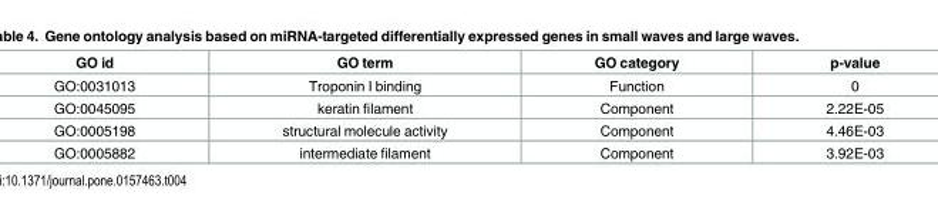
<table><thead><tr><td>GO id</td><td>GO term</td><td>GO category</td><td>p-value</td></tr></thead><tbody><tr><td>GO:0031013</td><td>Troponin I binding</td><td>Function</td><td>0</td></tr><tr><td>GO:0045095</td><td>keratin filament</td><td>Component</td><td>2.22E-05</td></tr><tr><td>GO:0005198</td><td>structural molecule activity</td><td>Component</td><td>4.46E-03</td></tr><tr><td>GO:0005882</td><td>intermediate filament</td><td>Component</td><td>3.92E-03</td></tr></tbody></table>